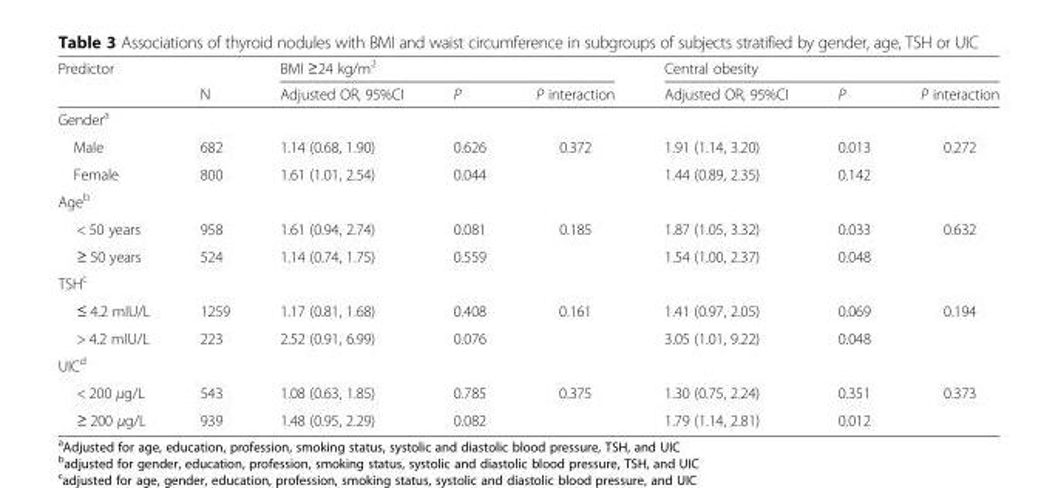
<table><thead><tr><td rowspan="2">Predictor</td><td rowspan="2">N</td><td colspan="3">BMI ≥24 kg/m<sup>2</sup></td><td colspan="3">Central obesity</td></tr><tr><td>Adjusted OR, 95%CI</td><td>P</td><td>P interaction</td><td>Adjusted OR, 95%CI</td><td>P</td><td>P interaction</td></tr></thead><tbody><tr><td colspan="8">Gender<sup>a</sup></td></tr><tr><td>Male</td><td>682</td><td>1.14 (0.68, 1.90)</td><td>0.626</td><td>0.372</td><td>1.91 (1.14, 3.20)</td><td>0.013</td><td>0.272</td></tr><tr><td>Female</td><td>800</td><td>1.61 (1.01, 2.54)</td><td>0.044</td><td></td><td>1.44 (0.89, 2.35)</td><td>0.142</td><td></td></tr><tr><td colspan="8">Age<sup>b</sup></td></tr><tr><td>&lt; 50 years</td><td>958</td><td>1.61 (0.94, 2.74)</td><td>0.081</td><td>0.185</td><td>1.87 (1.05, 3.32)</td><td>0.033</td><td>0.632</td></tr><tr><td>≥ 50 years</td><td>524</td><td>1.14 (0.74, 1.75)</td><td>0.559</td><td></td><td>1.54 (1.00, 2.37)</td><td>0.048</td><td></td></tr><tr><td colspan="8">TSH<sup>c</sup></td></tr><tr><td>≤ 4.2 mIU/L</td><td>1259</td><td>1.17 (0.81, 1.68)</td><td>0.408</td><td>0.161</td><td>1.41 (0.97, 2.05)</td><td>0.069</td><td>0.194</td></tr><tr><td>&gt; 4.2 mIU/L</td><td>223</td><td>2.52 (0.91, 6.99)</td><td>0.076</td><td></td><td>3.05 (1.01, 9.22)</td><td>0.048</td><td></td></tr><tr><td colspan="8">UIC<sup>d</sup></td></tr><tr><td>&lt; 200 µg/L</td><td>543</td><td>1.08 (0.63, 1.85)</td><td>0.785</td><td>0.375</td><td>1.30 (0.75, 2.24)</td><td>0.351</td><td>0.373</td></tr><tr><td>≥ 200 µg/L</td><td>939</td><td>1.48 (0.95, 2.29)</td><td>0.082</td><td></td><td>1.79 (1.14, 2.81)</td><td>0.012</td><td></td></tr></tbody></table>